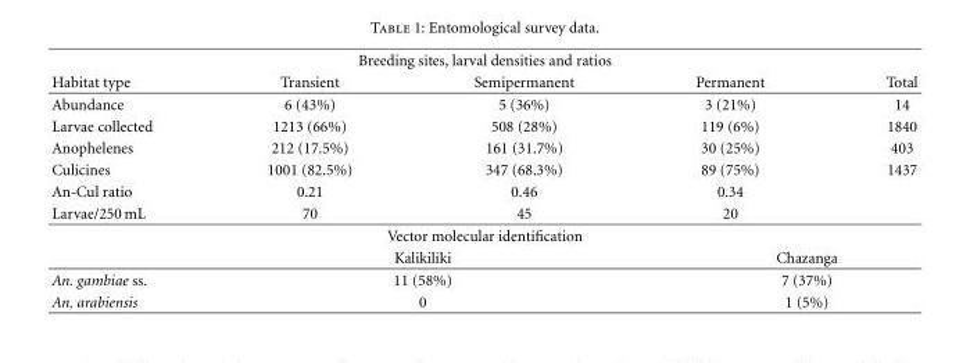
<table><thead><tr><td colspan="5">Breeding sites, larval densities and ratios</td></tr><tr><td>Habitat type</td><td>Transient</td><td>Semipermanent</td><td>Permanent</td><td>Total</td></tr></thead><tbody><tr><td>Abundance</td><td>6 (43%)</td><td>5 (36%)</td><td>3 (21%)</td><td>14</td></tr><tr><td>Larvae collected</td><td>1213 (66%)</td><td>508 (28%)</td><td>119 (6%)</td><td>1840</td></tr><tr><td>Anophelenes</td><td>212 (17.5%)</td><td>161 (31.7%)</td><td>30 (25%)</td><td>403</td></tr><tr><td>Culicines</td><td>1001 (82.5%)</td><td>347 (68.3%)</td><td>89 (75%)</td><td>1437</td></tr><tr><td>An-Cul ratio</td><td>0.21</td><td>0.46</td><td>0.34</td><td></td></tr><tr><td>Larvae/250 mL</td><td>70</td><td>45</td><td>20</td><td></td></tr><tr><td colspan="5">Vector molecular identification</td></tr><tr><td></td><td colspan="2">Kalikiliki</td><td colspan="2">Chazanga</td></tr><tr><td>An. gambiae ss.</td><td colspan="2">11 (58%)</td><td colspan="2">7 (37%)</td></tr><tr><td>An. arabiensis</td><td colspan="2">0</td><td colspan="2">1 (5%)</td></tr></tbody></table>